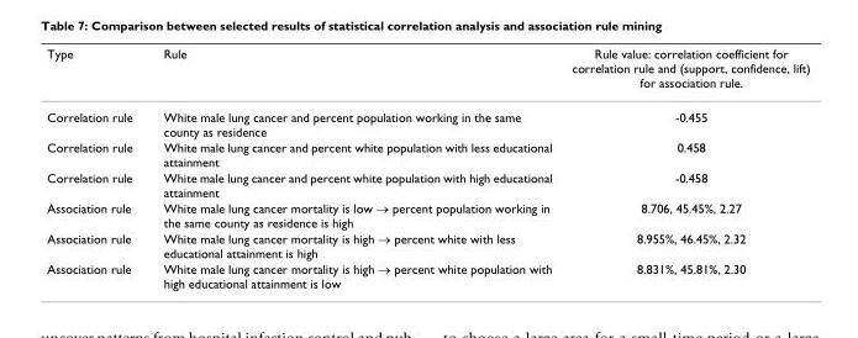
<table><thead><tr><td>Type</td><td>Rule</td><td>Rule value: correlation coefficient for correlation rule and (support, confidence, lift) for association rule.</td></tr></thead><tbody><tr><td>Correlation rule</td><td>White male lung cancer and percent population working in the same county as residence</td><td>-0.455</td></tr><tr><td>Correlation rule</td><td>White male lung cancer and percent white population with less educational attainment</td><td>0.458</td></tr><tr><td>Correlation rule</td><td>White male lung cancer and percent white population with high educational attainment</td><td>-0.458</td></tr><tr><td>Association rule</td><td>White male lung cancer mortality is low → percent population working in the same county as residence is high</td><td>8.706, 45.45%, 2.27</td></tr><tr><td>Association rule</td><td>White male lung cancer mortality is high → percent white with less educational attainment is high</td><td>8.955%, 46.45%, 2.32</td></tr><tr><td>Association rule</td><td>White male lung cancer mortality is high → percent white population with high educational attainment is low</td><td>8.831%, 45.81%, 2.30</td></tr></tbody></table>